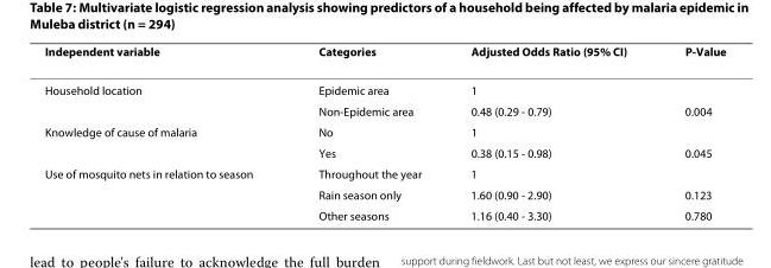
<table><thead><tr><td>Independent variable</td><td>Categories</td><td>Adjusted Odds Ratio (95% CI)</td><td>P-Value</td></tr></thead><tbody><tr><td rowspan="2">Household location</td><td>Epidemic area</td><td>1</td><td></td></tr><tr><td>Non-Epidemic area</td><td>0.48 (0.29 - 0.79)</td><td>0.004</td></tr><tr><td rowspan="2">Knowledge of cause of malaria</td><td>No</td><td>1</td><td></td></tr><tr><td>Yes</td><td>0.38 (0.15 - 0.98)</td><td>0.045</td></tr><tr><td rowspan="3">Use of mosquito nets in relation to season</td><td>Throughout the year</td><td>1</td><td></td></tr><tr><td>Rain season only</td><td>1.60 (0.90 - 2.90)</td><td>0.123</td></tr><tr><td>Other seasons</td><td>1.16 (0.40 - 3.30)</td><td>0.780</td></tr></tbody></table>